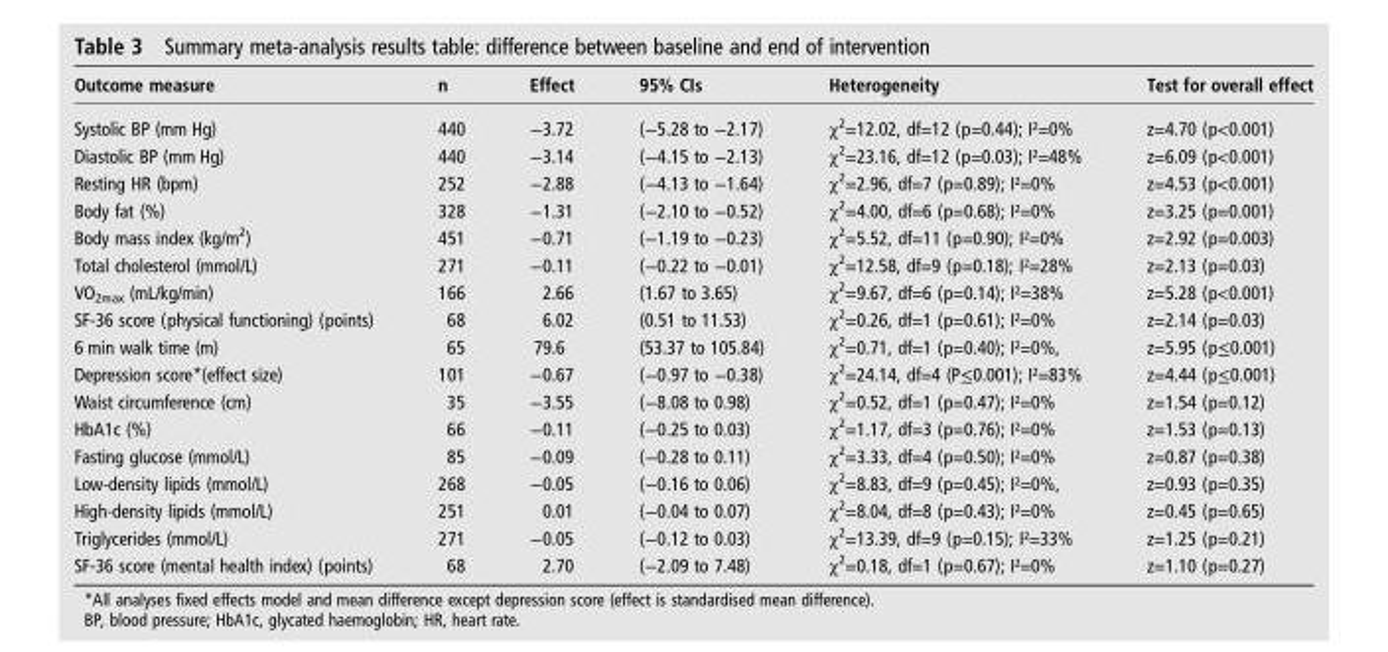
<table><thead><tr><td>Outcome measure</td><td>n</td><td>Effect</td><td>95% CIs</td><td>Heterogeneity</td><td>Test for overall effect</td></tr></thead><tbody><tr><td>Systolic BP (mm Hg)</td><td>440</td><td>−3.72</td><td>(−5.28 to −2.17)</td><td>χ<sup>2</sup>=12.02, df=12 (p=0.44); I²=0%</td><td>z=4.70 (p&lt;0.001)</td></tr><tr><td>Diastolic BP (mm Hg)</td><td>440</td><td>−3.14</td><td>(−4.15 to −2.13)</td><td>χ<sup>2</sup>=23.16, df=12 (p=0.03); I²=48%</td><td>z=6.09 (p&lt;0.001)</td></tr><tr><td>Resting HR (bpm)</td><td>252</td><td>−2.88</td><td>(−4.13 to −1.64)</td><td>χ<sup>2</sup>=2.96, df=7 (p=0.89); I²=0%</td><td>z=4.53 (p&lt;0.001)</td></tr><tr><td>Body fat (%)</td><td>328</td><td>−1.31</td><td>(−2.10 to −0.52)</td><td>χ<sup>2</sup>=4.00, df=6 (p=0.68); I²=0%</td><td>z=3.25 (p=0.001)</td></tr><tr><td>Body mass index (kg/m<sup>2</sup>)</td><td>451</td><td>−0.71</td><td>(−1.19 to −0.23)</td><td>χ<sup>2</sup>=5.52, df=11 (p=0.90); I²=0%</td><td>z=2.92 (p=0.003)</td></tr><tr><td>Total cholesterol (mmol/L)</td><td>271</td><td>−0.11</td><td>(−0.22 to −0.01)</td><td>χ<sup>2</sup>=12.58, df=9 (p=0.18); I²=28%</td><td>z=2.13 (p=0.03)</td></tr><tr><td>VO<sub>2max</sub> (mL/kg/min)</td><td>166</td><td>2.66</td><td>(1.67 to 3.65)</td><td>χ<sup>2</sup>=9.67, df=6 (p=0.14); I²=38%</td><td>z=5.28 (p&lt;0.001)</td></tr><tr><td>SF-36 score (physical functioning) (points)</td><td>68</td><td>6.02</td><td>(0.51 to 11.53)</td><td>χ<sup>2</sup>=0.26, df=1 (p=0.61); I²=0%</td><td>z=2.14 (p=0.03)</td></tr><tr><td>6 min walk time (m)</td><td>65</td><td>79.6</td><td>(53.37 to 105.84)</td><td>χ<sup>2</sup>=0.71, df=1 (p=0.40); I²=0%,</td><td>z=5.95 (p≤0.001)</td></tr><tr><td>Depression score*(effect size)</td><td>101</td><td>−0.67</td><td>(−0.97 to −0.38)</td><td>χ<sup>2</sup>=24.14, df=4 (P≤0.001); I²=83%</td><td>z=4.44 (p≤0.001)</td></tr><tr><td>Waist circumference (cm)</td><td>35</td><td>−3.55</td><td>(−8.08 to 0.98)</td><td>χ<sup>2</sup>=0.52, df=1 (p=0.47); I²=0%</td><td>z=1.54 (p=0.12)</td></tr><tr><td>HbA1c (%)</td><td>66</td><td>−0.11</td><td>(−0.25 to 0.03)</td><td>χ<sup>2</sup>=1.17, df=3 (p=0.76); I²=0%</td><td>z=1.53 (p=0.13)</td></tr><tr><td>Fasting glucose (mmol/L)</td><td>85</td><td>−0.09</td><td>(−0.28 to 0.11)</td><td>χ<sup>2</sup>=3.33, df=4 (p=0.50); I²=0%</td><td>z=0.87 (p=0.38)</td></tr><tr><td>Low-density lipids (mmol/L)</td><td>268</td><td>−0.05</td><td>(−0.16 to 0.06)</td><td>χ<sup>2</sup>=8.83, df=9 (p=0.45); I²=0%,</td><td>z=0.93 (p=0.35)</td></tr><tr><td>High-density lipids (mmol/L)</td><td>251</td><td>0.01</td><td>(−0.04 to 0.07)</td><td>χ<sup>2</sup>=8.04, df=8 (p=0.43); I²=0%</td><td>z=0.45 (p=0.65)</td></tr><tr><td>Triglycerides (mmol/L)</td><td>271</td><td>−0.05</td><td>(−0.12 to 0.03)</td><td>χ<sup>2</sup>=13.39, df=9 (p=0.15); I²=33%</td><td>z=1.25 (p=0.21)</td></tr><tr><td>SF-36 score (mental health index) (points)</td><td>68</td><td>2.70</td><td>(−2.09 to 7.48)</td><td>χ<sup>2</sup>=0.18, df=1 (p=0.67); I²=0%</td><td>z=1.10 (p=0.27)</td></tr></tbody></table>